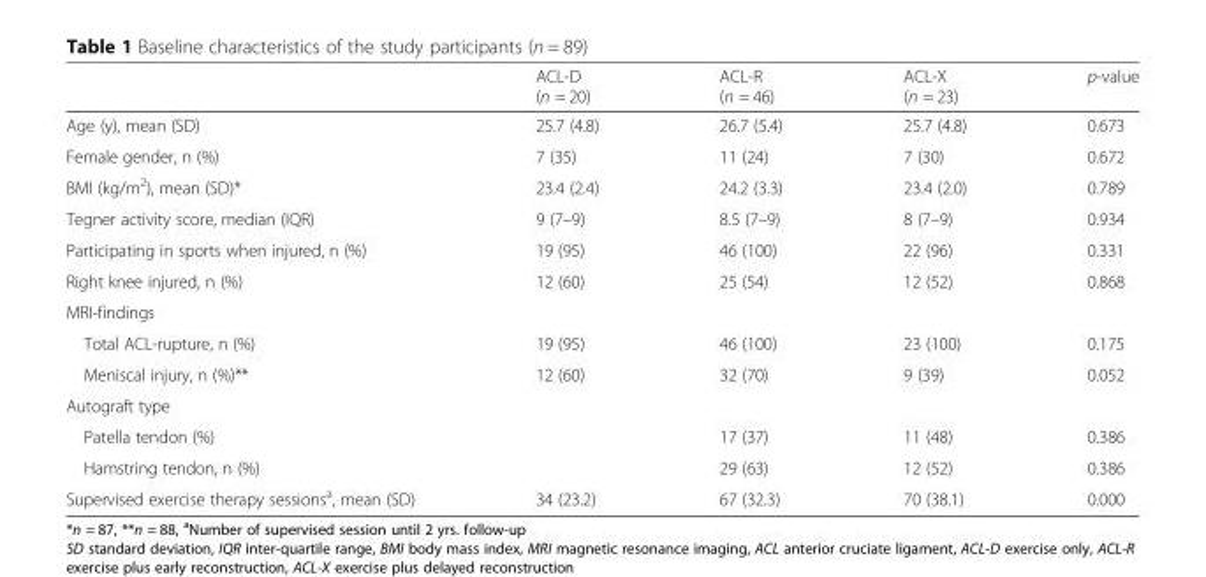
<table><thead><tr><td></td><td>ACL-D (n = 20)</td><td>ACL-R (n = 46)</td><td>ACL-X (n = 23)</td><td>p-value</td></tr></thead><tbody><tr><td>Age (y), mean (SD)</td><td>25.7 (4.8)</td><td>26.7 (5.4)</td><td>25.7 (4.8)</td><td>0.673</td></tr><tr><td>Female gender, n (%)</td><td>7 (35)</td><td>11 (24)</td><td>7 (30)</td><td>0.672</td></tr><tr><td>BMI (kg/m<sup>2</sup>), mean (SD)*</td><td>23.4 (2.4)</td><td>24.2 (3.3)</td><td>23.4 (2.0)</td><td>0.789</td></tr><tr><td>Tegner activity score, median (IQR)</td><td>9 (7–9)</td><td>8.5 (7–9)</td><td>8 (7–9)</td><td>0.934</td></tr><tr><td>Participating in sports when injured, n (%)</td><td>19 (95)</td><td>46 (100)</td><td>22 (96)</td><td>0.331</td></tr><tr><td>Right knee injured, n (%)</td><td>12 (60)</td><td>25 (54)</td><td>12 (52)</td><td>0.868</td></tr><tr><td colspan="5">MRI-findings</td></tr><tr><td>Total ACL-rupture, n (%)</td><td>19 (95)</td><td>46 (100)</td><td>23 (100)</td><td>0.175</td></tr><tr><td>Meniscal injury, n (%)**</td><td>12 (60)</td><td>32 (70)</td><td>9 (39)</td><td>0.052</td></tr><tr><td colspan="5">Autograft type</td></tr><tr><td>Patella tendon (%)</td><td></td><td>17 (37)</td><td>11 (48)</td><td>0.386</td></tr><tr><td>Hamstring tendon, n (%)</td><td></td><td>29 (63)</td><td>12 (52)</td><td>0.386</td></tr><tr><td>Supervised exercise therapy sessions<sup>a</sup>, mean (SD)</td><td>34 (23.2)</td><td>67 (32.3)</td><td>70 (38.1)</td><td>0.000</td></tr></tbody></table>